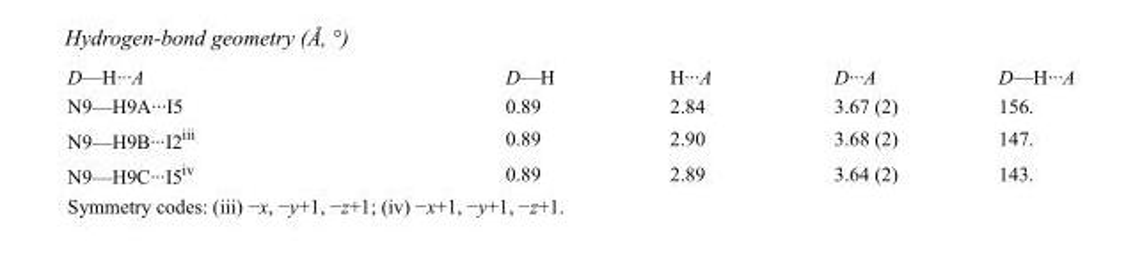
<table><tbody><tr><td>D—H···A</td><td>D—H</td><td>H···A</td><td>D···A</td><td>D—H···A</td></tr><tr><td>N9—H9A···I5</td><td>0.89</td><td>2.84</td><td>3.67 (2)</td><td>156.</td></tr><tr><td>N9—H9B···I2<sup>iii</sup></td><td>0.89</td><td>2.90</td><td>3.68 (2)</td><td>147.</td></tr><tr><td>N9—H9C···I5<sup>iv</sup></td><td>0.89</td><td>2.89</td><td>3.64 (2)</td><td>143.</td></tr></tbody></table>